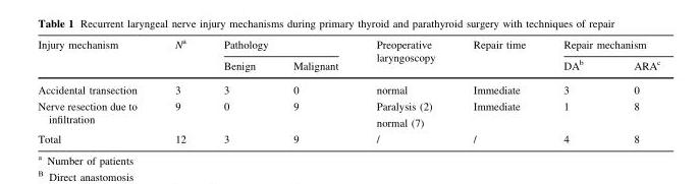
<table><thead><tr><td rowspan="2">Injury mechanism</td><td rowspan="2">N<sup>a</sup></td><td colspan="2">Pathology</td><td rowspan="2">Preoperative laryngoscopy</td><td rowspan="2">Repair time</td><td colspan="2">Repair mechanism</td></tr><tr><td>Benign</td><td>Malignant</td><td>DA<sup>b</sup></td><td>ARA<sup>c</sup></td></tr></thead><tbody><tr><td>Accidental transection</td><td>3</td><td>3</td><td>0</td><td>normal</td><td>Immediate</td><td>3</td><td>0</td></tr><tr><td>Nerve resection due to infiltration</td><td>9</td><td>0</td><td>9</td><td>Paralysis (2) normal (7)</td><td>Immediate</td><td>1</td><td>8</td></tr><tr><td>Total</td><td>12</td><td>3</td><td>9</td><td>/</td><td>/</td><td>4</td><td>8</td></tr></tbody></table>